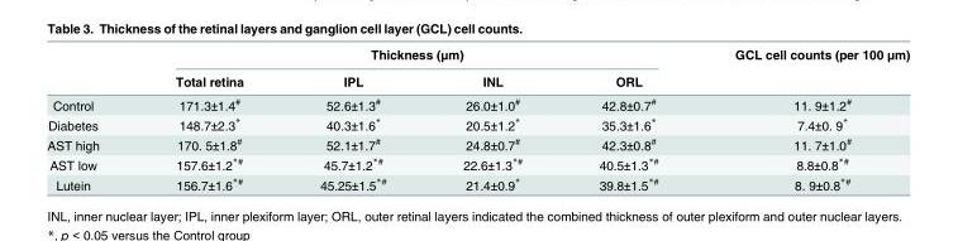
<table><thead><tr><td rowspan="2"></td><td colspan="4">Thickness (μm)</td><td rowspan="2">GCL cell counts (per 100 μm)</td></tr><tr><td>Total retina</td><td>IPL</td><td>INL</td><td>ORL</td></tr></thead><tbody><tr><td>Control</td><td>171.3±1.4<sup>#</sup></td><td>52.6±1.3<sup>#</sup></td><td>26.0±1.0<sup>#</sup></td><td>42.8±0.7<sup>#</sup></td><td>11. 9±1.2<sup>#</sup></td></tr><tr><td>Diabetes</td><td>148.7±2.3*</td><td>40.3±1.6*</td><td>20.5±1.2*</td><td>35.3±1.6*</td><td>7.4±0. 9*</td></tr><tr><td>AST high</td><td>170. 5±1.8<sup>#</sup></td><td>52.1±1.7<sup>#</sup></td><td>24.8±0.7<sup>#</sup></td><td>42.3±0.8<sup>#</sup></td><td>11. 7±1.0<sup>#</sup></td></tr><tr><td>AST low</td><td>157.6±1.2<sup>*#</sup></td><td>45.7±1.2<sup>*#</sup></td><td>22.6±1.3<sup>*#</sup></td><td>40.5±1.3<sup>*#</sup></td><td>8.8±0.8<sup>*#</sup></td></tr><tr><td>Lutein</td><td>156.7±1.6<sup>*#</sup></td><td>45.25±1.5<sup>*#</sup></td><td>21.4±0.9*</td><td>39.8±1.5<sup>*#</sup></td><td>8. 9±0.8<sup>*#</sup></td></tr></tbody></table>